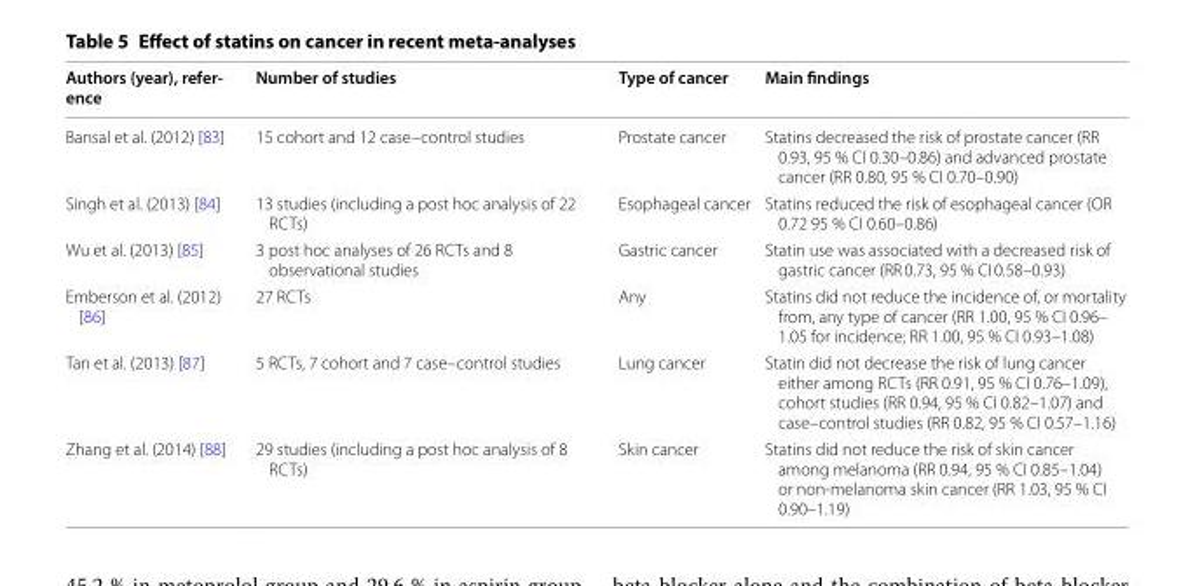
<table><thead><tr><td>Authors (year), refer‑ ence</td><td>Number of studies</td><td>Type of cancer</td><td>Main findings</td></tr></thead><tbody><tr><td>Bansal et al. (2012) [83]</td><td>15 cohort and 12 case–control studies</td><td>Prostate cancer</td><td>Statins decreased the risk of prostate cancer (RR 0.93, 95 % CI 0.30–0.86) and advanced prostate cancer (RR 0.80, 95 % CI 0.70–0.90)</td></tr><tr><td>Singh et al. (2013) [84]</td><td>13 studies (including a post hoc analysis of 22 RCTs)</td><td>Esophageal cancer</td><td>Statins reduced the risk of esophageal cancer (OR 0.72 95 % CI 0.60–0.86)</td></tr><tr><td>Wu et al. (2013) [85]</td><td>3 post hoc analyses of 26 RCTs and 8 observational studies</td><td>Gastric cancer</td><td>Statin use was associated with a decreased risk of gastric cancer (RR 0.73, 95 % CI 0.58–0.93)</td></tr><tr><td>Emberson et al. (2012) [86]</td><td>27 RCTs</td><td>Any</td><td>Statins did not reduce the incidence of, or mortality from, any type of cancer (RR 1.00, 95 % CI 0.96– 1.05 for incidence; RR 1.00, 95 % CI 0.93–1.08)</td></tr><tr><td>Tan et al. (2013) [87]</td><td>5 RCTs, 7 cohort and 7 case–control studies</td><td>Lung cancer</td><td>Statin did not decrease the risk of lung cancer either among RCTs (RR 0.91, 95 % CI 0.76–1.09), cohort studies (RR 0.94, 95 % CI 0.82–1.07) and case–control studies (RR 0.82, 95 % CI 0.57–1.16)</td></tr><tr><td>Zhang et al. (2014) [88]</td><td>29 studies (including a post hoc analysis of 8 RCTs)</td><td>Skin cancer</td><td>Statins did not reduce the risk of skin cancer among melanoma (RR 0.94, 95 % CI 0.85–1.04) or non-melanoma skin cancer (RR 1.03, 95 % CI 0.90–1.19)</td></tr></tbody></table>